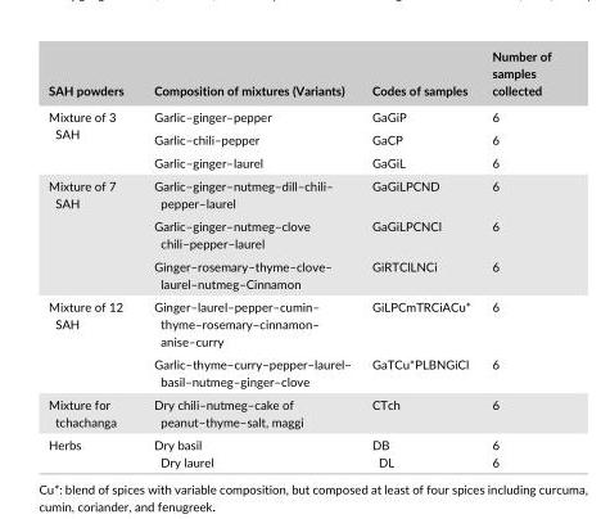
<table><thead><tr><td>SAH powders</td><td>Composition of mixtures (Variants)</td><td>Codes of samples</td><td>Number of samples collected</td></tr></thead><tbody><tr><td rowspan="3">Mixture of 3 SAH</td><td>Garlic–ginger–pepper</td><td>GaGiP</td><td>6</td></tr><tr><td>Garlic–chili–pepper</td><td>GaCP</td><td>6</td></tr><tr><td>Garlic–ginger–laurel</td><td>GaGiL</td><td>6</td></tr><tr><td rowspan="3">Mixture of 7 SAH</td><td>Garlic–ginger–nutmeg–dill–chili– pepper–laurel</td><td>GaGiLPCND</td><td>6</td></tr><tr><td>Garlic–ginger–nutmeg–clove chili–pepper–laurel</td><td>GaGiLPCNCl</td><td>6</td></tr><tr><td>Ginger–rosemary–thyme–clove– laurel–nutmeg–Cinnamon</td><td>GiRTClLNCi</td><td>6</td></tr><tr><td rowspan="2">Mixture of 12 SAH</td><td>Ginger–laurel–pepper–cumin– thyme–rosemary–cinnamon– anise–curry</td><td>GiLPCmTRCiACu*</td><td>6</td></tr><tr><td>Garlic–thyme–curry–pepper–laurel– basil–nutmeg–ginger–clove</td><td>GaTCu*PLBNGiCl</td><td>6</td></tr><tr><td>Mixture for tchachanga</td><td>Dry chili–nutmeg–cake of peanut–thyme–salt, maggi</td><td>CTch</td><td>6</td></tr><tr><td>Herbs</td><td>Dry basil Dry laurel</td><td>DB DL</td><td>6 6</td></tr></tbody></table>